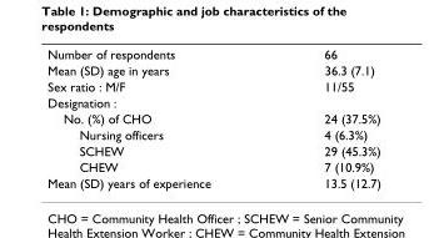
<table><tbody><tr><td>Number of respondents</td><td>66</td></tr><tr><td>Mean (SD) age in years</td><td>36.3 (7.1)</td></tr><tr><td>Sex ratio : M/F</td><td>11/55</td></tr><tr><td colspan="2">Designation :</td></tr><tr><td>No. (%) of CHO</td><td>24 (37.5%)</td></tr><tr><td>Nursing officers</td><td>4 (6.3%)</td></tr><tr><td>SCHEW</td><td>29 (45.3%)</td></tr><tr><td>CHEW</td><td>7 (10.9%)</td></tr><tr><td>Mean (SD) years of experience</td><td>13.5 (12.7)</td></tr></tbody></table>